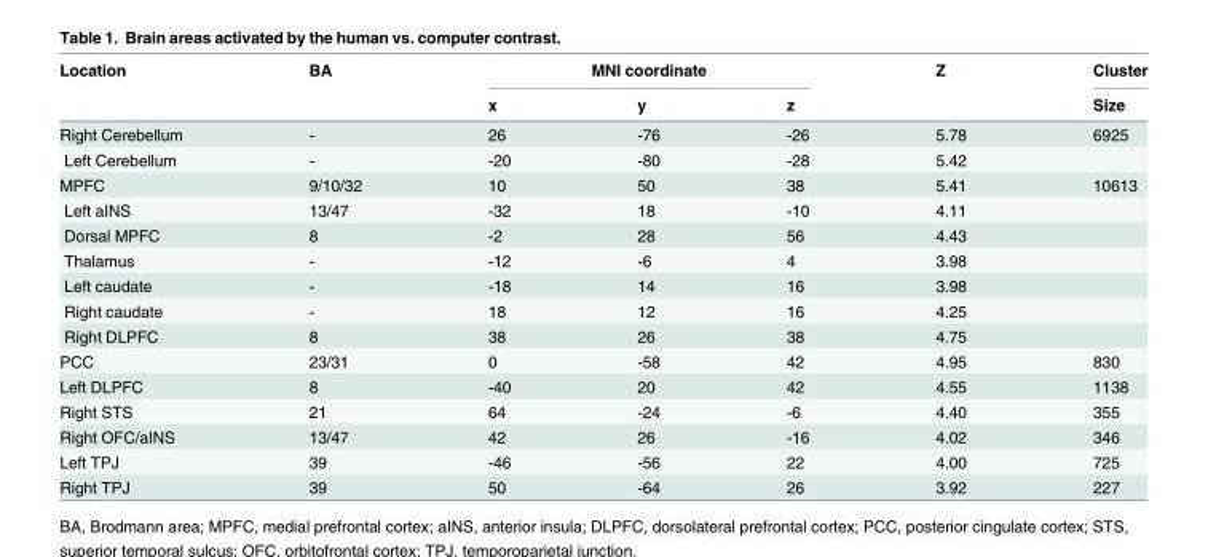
<table><thead><tr><td rowspan="2">Location</td><td rowspan="2">BA</td><td colspan="3">MNI coordinate</td><td rowspan="2">Z</td><td rowspan="2">Cluster Size</td></tr><tr><td>x</td><td>y</td><td>z</td></tr></thead><tbody><tr><td>Right Cerebellum</td><td>-</td><td>26</td><td>-76</td><td>-26</td><td>5.78</td><td>6925</td></tr><tr><td>Left Cerebellum</td><td>-</td><td>-20</td><td>-80</td><td>-28</td><td>5.42</td><td></td></tr><tr><td>MPFC</td><td>9/10/32</td><td>10</td><td>50</td><td>38</td><td>5.41</td><td>10613</td></tr><tr><td>Left aINS</td><td>13/47</td><td>-32</td><td>18</td><td>-10</td><td>4.11</td><td></td></tr><tr><td>Dorsal MPFC</td><td>8</td><td>-2</td><td>28</td><td>56</td><td>4.43</td><td></td></tr><tr><td>Thalamus</td><td>-</td><td>-12</td><td>-6</td><td>4</td><td>3.98</td><td></td></tr><tr><td>Left caudate</td><td>-</td><td>-18</td><td>14</td><td>16</td><td>3.98</td><td></td></tr><tr><td>Right caudate</td><td>-</td><td>18</td><td>12</td><td>16</td><td>4.25</td><td></td></tr><tr><td>Right DLPFC</td><td>8</td><td>38</td><td>26</td><td>38</td><td>4.75</td><td></td></tr><tr><td>PCC</td><td>23/31</td><td>0</td><td>-58</td><td>42</td><td>4.95</td><td>830</td></tr><tr><td>Left DLPFC</td><td>8</td><td>-40</td><td>20</td><td>42</td><td>4.55</td><td>1138</td></tr><tr><td>Right STS</td><td>21</td><td>64</td><td>-24</td><td>-6</td><td>4.40</td><td>355</td></tr><tr><td>Right OFC/aINS</td><td>13/47</td><td>42</td><td>26</td><td>-16</td><td>4.02</td><td>346</td></tr><tr><td>Left TPJ</td><td>39</td><td>-46</td><td>-56</td><td>22</td><td>4.00</td><td>725</td></tr><tr><td>Right TPJ</td><td>39</td><td>50</td><td>-64</td><td>26</td><td>3.92</td><td>227</td></tr></tbody></table>